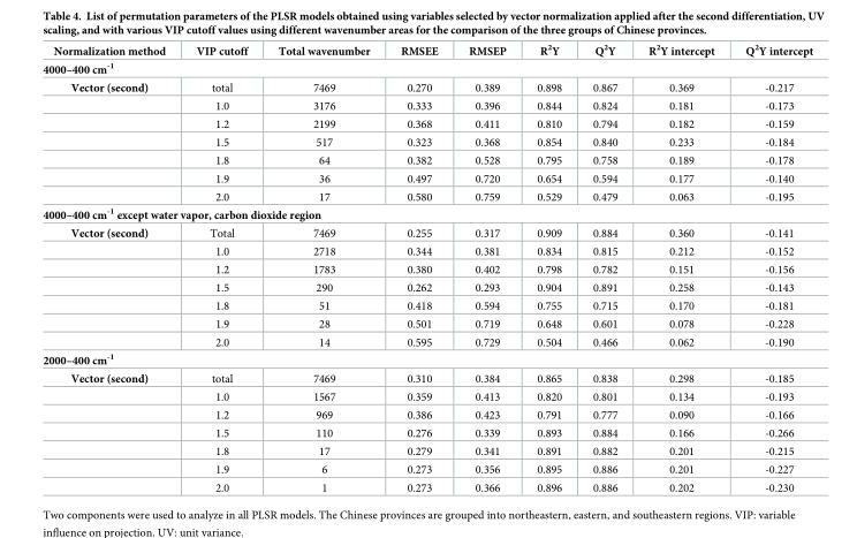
<table><thead><tr><td>Normalization method</td><td>VIP cutoff</td><td>Total wavenumber</td><td>RMSEE</td><td>RMSEP</td><td>R<sup>2</sup>Y</td><td>Q<sup>2</sup>Y</td><td>R<sup>2</sup>Y intercept</td><td>Q<sup>2</sup>Y intercept</td></tr></thead><tbody><tr><td colspan="9">4000–400 cm<sup>-1</sup></td></tr><tr><td rowspan="7">Vector (second)</td><td>total</td><td>7469</td><td>0.270</td><td>0.389</td><td>0.898</td><td>0.867</td><td>0.369</td><td>-0.217</td></tr><tr><td>1.0</td><td>3176</td><td>0.333</td><td>0.396</td><td>0.844</td><td>0.824</td><td>0.181</td><td>-0.173</td></tr><tr><td>1.2</td><td>2199</td><td>0.368</td><td>0.411</td><td>0.810</td><td>0.794</td><td>0.182</td><td>-0.159</td></tr><tr><td>1.5</td><td>517</td><td>0.323</td><td>0.368</td><td>0.854</td><td>0.840</td><td>0.233</td><td>-0.184</td></tr><tr><td>1.8</td><td>64</td><td>0.382</td><td>0.528</td><td>0.795</td><td>0.758</td><td>0.189</td><td>-0.178</td></tr><tr><td>1.9</td><td>36</td><td>0.497</td><td>0.720</td><td>0.654</td><td>0.594</td><td>0.177</td><td>-0.140</td></tr><tr><td>2.0</td><td>17</td><td>0.580</td><td>0.759</td><td>0.529</td><td>0.479</td><td>0.063</td><td>-0.195</td></tr><tr><td colspan="9">4000–400 cm<sup>-1</sup> except water vapor, carbon dioxide region</td></tr><tr><td rowspan="7">Vector (second)</td><td>Total</td><td>7469</td><td>0.255</td><td>0.317</td><td>0.909</td><td>0.884</td><td>0.360</td><td>-0.141</td></tr><tr><td>1.0</td><td>2718</td><td>0.344</td><td>0.381</td><td>0.834</td><td>0.815</td><td>0.212</td><td>-0.152</td></tr><tr><td>1.2</td><td>1783</td><td>0.380</td><td>0.402</td><td>0.798</td><td>0.782</td><td>0.151</td><td>-0.156</td></tr><tr><td>1.5</td><td>290</td><td>0.262</td><td>0.293</td><td>0.904</td><td>0.891</td><td>0.258</td><td>-0.143</td></tr><tr><td>1.8</td><td>51</td><td>0.418</td><td>0.594</td><td>0.755</td><td>0.715</td><td>0.170</td><td>-0.181</td></tr><tr><td>1.9</td><td>28</td><td>0.501</td><td>0.719</td><td>0.648</td><td>0.601</td><td>0.078</td><td>-0.228</td></tr><tr><td>2.0</td><td>14</td><td>0.595</td><td>0.729</td><td>0.504</td><td>0.466</td><td>0.062</td><td>-0.190</td></tr><tr><td colspan="9">2000–400 cm<sup>-1</sup></td></tr><tr><td rowspan="7">Vector (second)</td><td>total</td><td>7469</td><td>0.310</td><td>0.384</td><td>0.865</td><td>0.838</td><td>0.298</td><td>-0.185</td></tr><tr><td>1.0</td><td>1567</td><td>0.359</td><td>0.413</td><td>0.820</td><td>0.801</td><td>0.134</td><td>-0.193</td></tr><tr><td>1.2</td><td>969</td><td>0.386</td><td>0.423</td><td>0.791</td><td>0.777</td><td>0.090</td><td>-0.166</td></tr><tr><td>1.5</td><td>110</td><td>0.276</td><td>0.339</td><td>0.893</td><td>0.884</td><td>0.166</td><td>-0.266</td></tr><tr><td>1.8</td><td>17</td><td>0.279</td><td>0.341</td><td>0.891</td><td>0.882</td><td>0.201</td><td>-0.215</td></tr><tr><td>1.9</td><td>6</td><td>0.273</td><td>0.356</td><td>0.895</td><td>0.886</td><td>0.201</td><td>-0.227</td></tr><tr><td>2.0</td><td>1</td><td>0.273</td><td>0.366</td><td>0.896</td><td>0.886</td><td>0.202</td><td>-0.230</td></tr></tbody></table>